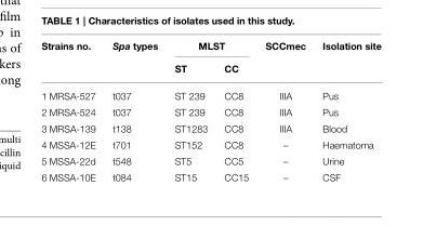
<table><thead><tr><td rowspan="2">Strains no.</td><td rowspan="2">Spa types</td><td colspan="2">MLST</td><td rowspan="2">SCCmec</td><td rowspan="2">Isolation site</td></tr><tr><td>ST</td><td>CC</td></tr></thead><tbody><tr><td>1 MRSA-527</td><td>t037</td><td>ST 239</td><td>CC8</td><td>IIIA</td><td>Pus</td></tr><tr><td>2 MRSA-524</td><td>t037</td><td>ST 239</td><td>CC8</td><td>IIIA</td><td>Pus</td></tr><tr><td>3 MRSA-139</td><td>t138</td><td>ST1283</td><td>CC8</td><td>IIIA</td><td>Blood</td></tr><tr><td>4 MSSA-12E</td><td>t701</td><td>ST152</td><td>CC8</td><td>–</td><td>Haematoma</td></tr><tr><td>5 MSSA-22d</td><td>t548</td><td>ST5</td><td>CC5</td><td>–</td><td>Urine</td></tr><tr><td>6 MSSA-10E</td><td>t084</td><td>ST15</td><td>CC15</td><td>–</td><td>CSF</td></tr></tbody></table>